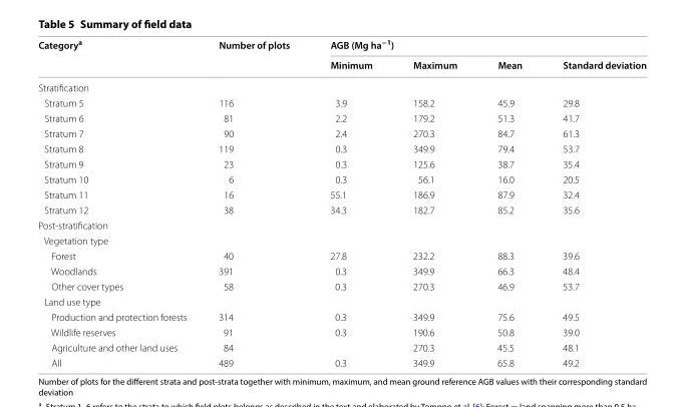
<table><thead><tr><td rowspan="2">Category<sup>a</sup></td><td rowspan="2">Number of plots</td><td colspan="4">AGB (Mg ha<sup>−1</sup>)</td></tr><tr><td>Minimum</td><td>Maximum</td><td>Mean</td><td>Standard deviation</td></tr></thead><tbody><tr><td colspan="6">Stratification</td></tr><tr><td>Stratum 5</td><td>116</td><td>3.9</td><td>158.2</td><td>45.9</td><td>29.8</td></tr><tr><td>Stratum 6</td><td>81</td><td>2.2</td><td>179.2</td><td>51.3</td><td>41.7</td></tr><tr><td>Stratum 7</td><td>90</td><td>2.4</td><td>270.3</td><td>84.7</td><td>61.3</td></tr><tr><td>Stratum 8</td><td>119</td><td>0.3</td><td>349.9</td><td>79.4</td><td>53.7</td></tr><tr><td>Stratum 9</td><td>23</td><td>0.3</td><td>125.6</td><td>38.7</td><td>35.4</td></tr><tr><td>Stratum 10</td><td>6</td><td>0.3</td><td>56.1</td><td>16.0</td><td>20.5</td></tr><tr><td>Stratum 11</td><td>16</td><td>55.1</td><td>186.9</td><td>87.9</td><td>32.4</td></tr><tr><td>Stratum 12</td><td>38</td><td>34.3</td><td>182.7</td><td>85.2</td><td>35.6</td></tr><tr><td colspan="6">Post-stratification</td></tr><tr><td colspan="6">Vegetation type</td></tr><tr><td>Forest</td><td>40</td><td>27.8</td><td>232.2</td><td>88.3</td><td>39.6</td></tr><tr><td>Woodlands</td><td>391</td><td>0.3</td><td>349.9</td><td>66.3</td><td>48.4</td></tr><tr><td>Other cover types</td><td>58</td><td>0.3</td><td>270.3</td><td>46.9</td><td>53.7</td></tr><tr><td colspan="6">Land use type</td></tr><tr><td>Production and protection forests</td><td>314</td><td>0.3</td><td>349.9</td><td>75.6</td><td>49.5</td></tr><tr><td>Wildlife reserves</td><td>91</td><td>0.3</td><td>190.6</td><td>50.8</td><td>39.0</td></tr><tr><td>Agriculture and other land uses</td><td>84</td><td></td><td>270.3</td><td>45.5</td><td>48.1</td></tr><tr><td>All</td><td>489</td><td>0.3</td><td>349.9</td><td>65.8</td><td>49.2</td></tr></tbody></table>